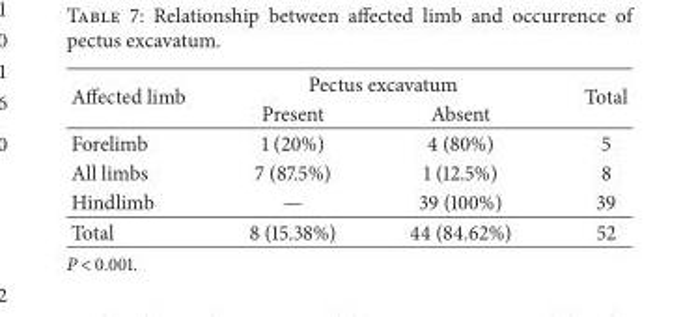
<table><thead><tr><td rowspan="2">Affected limb</td><td colspan="2">Pectus excavatum</td><td rowspan="2">Total</td></tr><tr><td>Present</td><td>Absent</td></tr></thead><tbody><tr><td>Forelimb</td><td>1 (20%)</td><td>4 (80%)</td><td>5</td></tr><tr><td>All limbs</td><td>7 (87.5%)</td><td>1 (12.5%)</td><td>8</td></tr><tr><td>Hindlimb</td><td>—</td><td>39 (100%)</td><td>39</td></tr><tr><td>Total</td><td>8 (15.38%)</td><td>44 (84.62%)</td><td>52</td></tr></tbody></table>